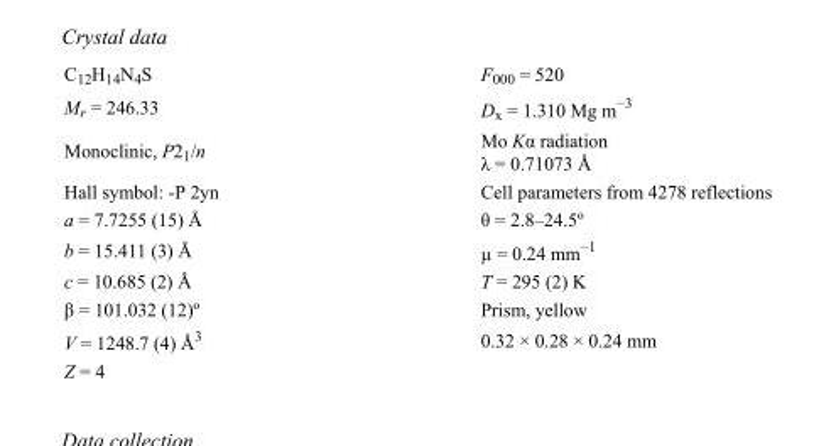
<table><tbody><tr><td>C<sub>12</sub>H<sub>14</sub>N<sub>4</sub>S</td><td>F<sub>000</sub> = 520</td></tr><tr><td>M<sub>r</sub> = 246.33</td><td>D<sub>x</sub> = 1.310 Mg m<sup>−3</sup></td></tr><tr><td>Monoclinic, P2<sub>1</sub>/n</td><td>Mo Kα radiation λ = 0.71073 Å</td></tr><tr><td>Hall symbol: -P 2yn</td><td>Cell parameters from 4278 reflections</td></tr><tr><td>a = 7.7255 (15) Å</td><td>θ = 2.8–24.5º</td></tr><tr><td>b = 15.411 (3) Å</td><td>µ = 0.24 mm<sup>−1</sup></td></tr><tr><td>c = 10.685 (2) Å</td><td>T = 295 (2) K</td></tr><tr><td>β = 101.032 (12)º</td><td>Prism, yellow</td></tr><tr><td>V = 1248.7 (4) Å<sup>3</sup></td><td>0.32 × 0.28 × 0.24 mm</td></tr><tr><td>Z = 4</td><td></td></tr></tbody></table>